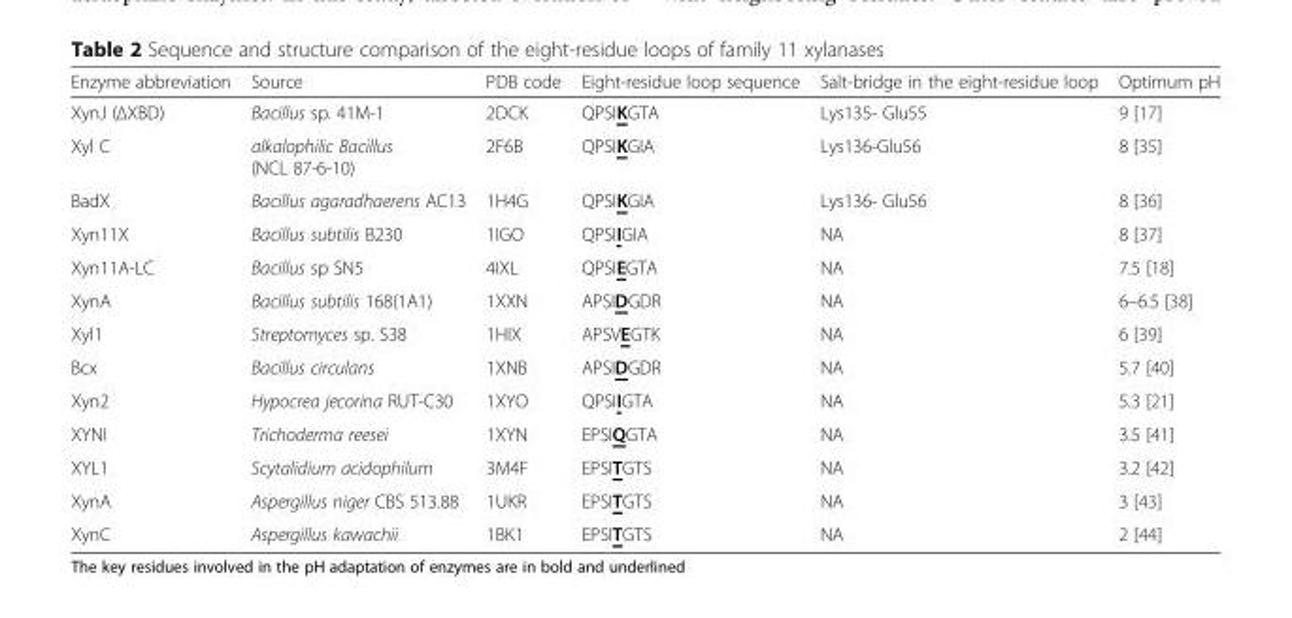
<table><thead><tr><td>Enzyme abbreviation</td><td>Source</td><td>PDB code</td><td>Eight-residue loop sequence</td><td>Salt-bridge in the eight-residue loop</td><td>Optimum pH</td></tr></thead><tbody><tr><td>XynJ (ΔXBD)</td><td>Bacillus sp. 41M-1</td><td>2DCK</td><td>QPSIKGTA</td><td>Lys135- Glu55</td><td>9 [17]</td></tr><tr><td>Xyl C</td><td>alkalophilic Bacillus (NCL 87-6-10)</td><td>2F6B</td><td>QPSIKGIA</td><td>Lys136-Glu56</td><td>8 [35]</td></tr><tr><td>BadX</td><td>Bacillus agaradhaerens AC13</td><td>1H4G</td><td>QPSIKGIA</td><td>Lys136- Glu56</td><td>8 [36]</td></tr><tr><td>Xyn11X</td><td>Bacillus subtilis B230</td><td>1IGO</td><td>QPSIIGIA</td><td>NA</td><td>8 [37]</td></tr><tr><td>Xyn11A-LC</td><td>Bacillus sp SN5</td><td>4IXL</td><td>QPSIEGTA</td><td>NA</td><td>7.5 [18]</td></tr><tr><td>XynA</td><td>Bacillus subtilis 168(1A1)</td><td>1XXN</td><td>APSIDGDR</td><td>NA</td><td>6–6.5 [38]</td></tr><tr><td>Xyl1</td><td>Streptomyces sp. S38</td><td>1HIX</td><td>APSVEGTK</td><td>NA</td><td>6 [39]</td></tr><tr><td>Bcx</td><td>Bacillus circulans</td><td>1XNB</td><td>APSIDGDR</td><td>NA</td><td>5.7 [40]</td></tr><tr><td>Xyn2</td><td>Hypocrea jecorina RUT-C30</td><td>1XYO</td><td>QPSIIGTA</td><td>NA</td><td>5.3 [21]</td></tr><tr><td>XYNI</td><td>Trichoderma reesei</td><td>1XYN</td><td>EPSIQGTA</td><td>NA</td><td>3.5 [41]</td></tr><tr><td>XYL1</td><td>Scytalidium acidophilum</td><td>3M4F</td><td>EPSITGTS</td><td>NA</td><td>3.2 [42]</td></tr><tr><td>XynA</td><td>Aspergillus niger CBS 513.88</td><td>1UKR</td><td>EPSITGTS</td><td>NA</td><td>3 [43]</td></tr><tr><td>XynC</td><td>Aspergillus kawachii</td><td>1BK1</td><td>EPSITGTS</td><td>NA</td><td>2 [44]</td></tr></tbody></table>